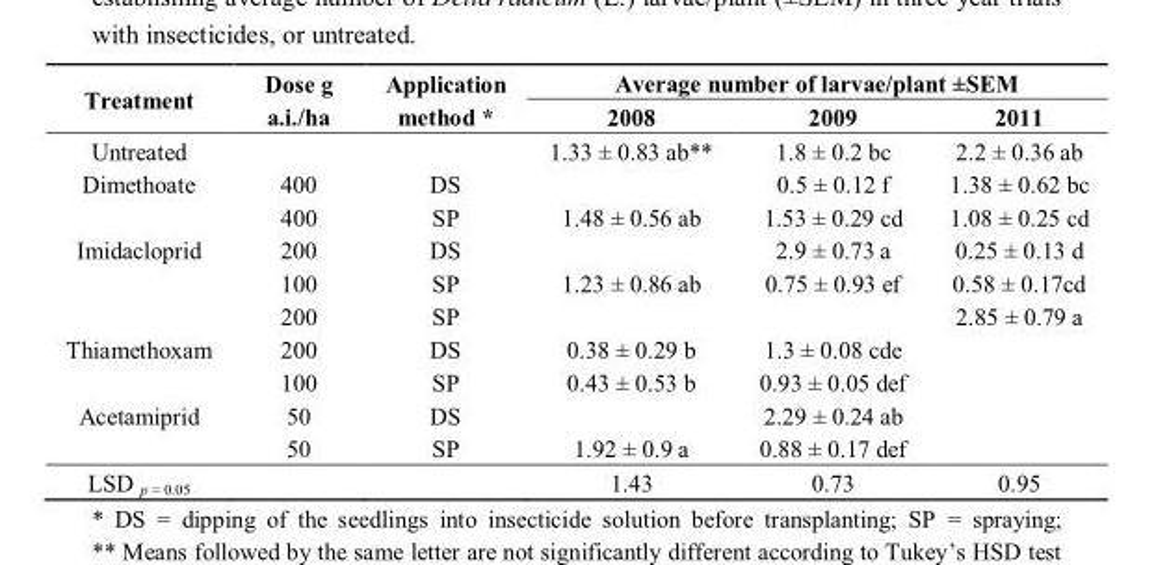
<table><thead><tr><td rowspan="2">Treatment</td><td rowspan="2">Dose g a.i./ha</td><td rowspan="2">Application method *</td><td colspan="3">Average number of larvae/plant ±SEM</td></tr><tr><td>2008</td><td>2009</td><td>2011</td></tr></thead><tbody><tr><td>Untreated</td><td></td><td></td><td>1.33 ± 0.83 ab**</td><td>1.8 ± 0.2 bc</td><td>2.2 ± 0.36 ab</td></tr><tr><td rowspan="2">Dimethoate</td><td>400</td><td>DS</td><td></td><td>0.5 ± 0.12 f</td><td>1.38 ± 0.62 bc</td></tr><tr><td>400</td><td>SP</td><td>1.48 ± 0.56 ab</td><td>1.53 ± 0.29 cd</td><td>1.08 ± 0.25 cd</td></tr><tr><td rowspan="3">Imidacloprid</td><td>200</td><td>DS</td><td></td><td>2.9 ± 0.73 a</td><td>0.25 ± 0.13 d</td></tr><tr><td>100</td><td>SP</td><td>1.23 ± 0.86 ab</td><td>0.75 ± 0.93 ef</td><td>0.58 ± 0.17cd</td></tr><tr><td>200</td><td>SP</td><td></td><td></td><td>2.85 ± 0.79 a</td></tr><tr><td rowspan="2">Thiamethoxam</td><td>200</td><td>DS</td><td>0.38 ± 0.29 b</td><td>1.3 ± 0.08 cde</td><td></td></tr><tr><td>100</td><td>SP</td><td>0.43 ± 0.53 b</td><td>0.93 ± 0.05 def</td><td></td></tr><tr><td rowspan="2">Acetamiprid</td><td>50</td><td>DS</td><td></td><td>2.29 ± 0.24 ab</td><td></td></tr><tr><td>50</td><td>SP</td><td>1.92 ± 0.9 a</td><td>0.88 ± 0.17 def</td><td></td></tr><tr><td>LSD <sub>p = 0.05</sub></td><td></td><td></td><td>1.43</td><td>0.73</td><td>0.95</td></tr></tbody></table>